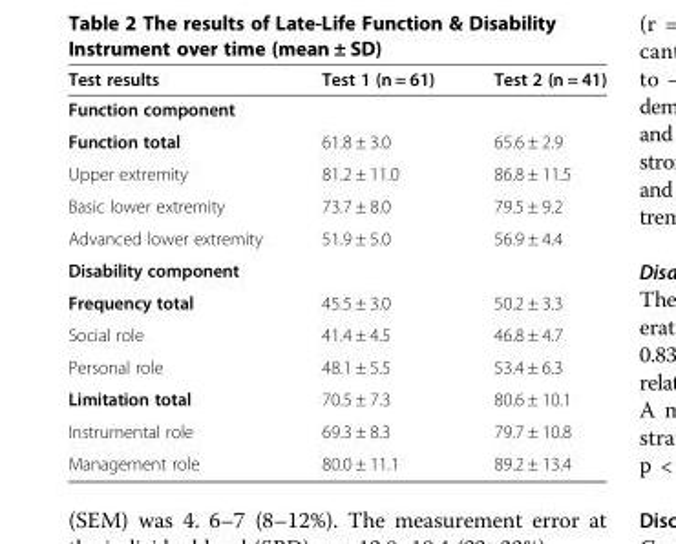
<table><thead><tr><td>Test results</td><td>Test 1 (n = 61)</td><td>Test 2 (n = 41)</td></tr></thead><tbody><tr><td colspan="3">Function component</td></tr><tr><td>Function total</td><td>61.8 ± 3.0</td><td>65.6 ± 2.9</td></tr><tr><td>Upper extremity</td><td>81.2 ± 11.0</td><td>86.8 ± 11.5</td></tr><tr><td>Basic lower extremity</td><td>73.7 ± 8.0</td><td>79.5 ± 9.2</td></tr><tr><td>Advanced lower extremity</td><td>51.9 ± 5.0</td><td>56.9 ± 4.4</td></tr><tr><td colspan="3">Disability component</td></tr><tr><td>Frequency total</td><td>45.5 ± 3.0</td><td>50.2 ± 3.3</td></tr><tr><td>Social role</td><td>41.4 ± 4.5</td><td>46.8 ± 4.7</td></tr><tr><td>Personal role</td><td>48.1 ± 5.5</td><td>53.4 ± 6.3</td></tr><tr><td>Limitation total</td><td>70.5 ± 7.3</td><td>80.6 ± 10.1</td></tr><tr><td>Instrumental role</td><td>69.3 ± 8.3</td><td>79.7 ± 10.8</td></tr><tr><td>Management role</td><td>80.0 ± 11.1</td><td>89.2 ± 13.4</td></tr></tbody></table>